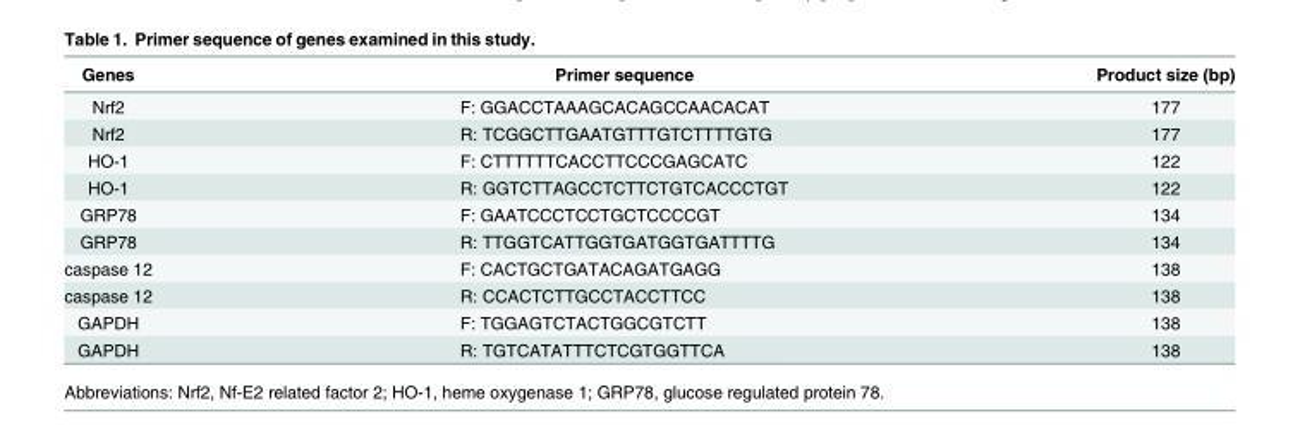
<table><thead><tr><td>Genes</td><td>Primer sequence</td><td>Product size (bp)</td></tr></thead><tbody><tr><td>Nrf2</td><td>F: GGACCTAAAGCACAGCCAACACAT</td><td>177</td></tr><tr><td>Nrf2</td><td>R: TCGGCTTGAATGTTTGTCTTTTGTG</td><td>177</td></tr><tr><td>HO-1</td><td>F: CTTTTTTCACCTTCCCGAGCATC</td><td>122</td></tr><tr><td>HO-1</td><td>R: GGTCTTAGCCTCTTCTGTCACCCTGT</td><td>122</td></tr><tr><td>GRP78</td><td>F: GAATCCCTCCTGCTCCCCGT</td><td>134</td></tr><tr><td>GRP78</td><td>R: TTGGTCATTGGTGATGGTGATTTTG</td><td>134</td></tr><tr><td>caspase 12</td><td>F: CACTGCTGATACAGATGAGG</td><td>138</td></tr><tr><td>caspase 12</td><td>R: CCACTCTTGCCTACCTTCC</td><td>138</td></tr><tr><td>GAPDH</td><td>F: TGGAGTCTACTGGCGTCTT</td><td>138</td></tr><tr><td>GAPDH</td><td>R: TGTCATATTTCTCGTGGTTCA</td><td>138</td></tr></tbody></table>